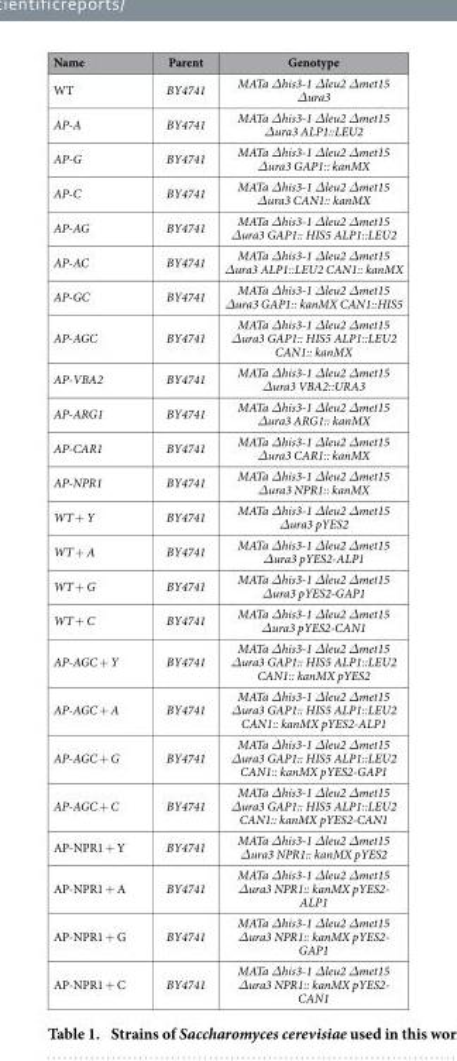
<table><thead><tr><td>Name</td><td>Parent</td><td>Genotype</td></tr></thead><tbody><tr><td>WT</td><td>BY4741</td><td>MATa Δhis3-1 Δleu2 Δmet15 Δura3</td></tr><tr><td>AP-A</td><td>BY4741</td><td>MATa Δhis3-1 Δleu2 Δmet15 Δura3 ALP1::LEU2</td></tr><tr><td>AP-G</td><td>BY4741</td><td>MATa Δhis3-1 Δleu2 Δmet15 Δura3 GAP1:: kanMX</td></tr><tr><td>AP-C</td><td>BY4741</td><td>MATa Δhis3-1 Δleu2 Δmet15 Δura3 CAN1:: kanMX</td></tr><tr><td>AP-AG</td><td>BY4741</td><td>MATa Δhis3-1 Δleu2 Δmet15 Δura3 GAP1:: HIS5 ALP1::LEU2</td></tr><tr><td>AP-AC</td><td>BY4741</td><td>MATa Δhis3-1 Δleu2 Δmet15 Δura3 ALP1::LEU2 CAN1:: kanMX</td></tr><tr><td>AP-GC</td><td>BY4741</td><td>MATa Δhis3-1 Δleu2 Δmet15 Δura3 GAP1:: kanMX CAN1::HIS5</td></tr><tr><td>AP-AGC</td><td>BY4741</td><td>MATa Δhis3-1 Δleu2 Δmet15 Δura3 GAP1:: HIS5 ALP1::LEU2 CAN1:: kanMX</td></tr><tr><td>AP-VBA2</td><td>BY4741</td><td>MATa Δhis3-1 Δleu2 Δmet15 Δura3 VBA2::URA3</td></tr><tr><td>AP-ARG1</td><td>BY4741</td><td>MATa Δhis3-1 Δleu2 Δmet15 Δura3 ARG1:: kanMX</td></tr><tr><td>AP-CAR1</td><td>BY4741</td><td>MATa Δhis3-1 Δleu2 Δmet15 Δura3 CAR1:: kanMX</td></tr><tr><td>AP-NPR1</td><td>BY4741</td><td>MATa Δhis3-1 Δleu2 Δmet15 Δura3 NPR1:: kanMX</td></tr><tr><td>WT + Y</td><td>BY4741</td><td>MATa Δhis3-1 Δleu2 Δmet15 Δura3 pYES2</td></tr><tr><td>WT + A</td><td>BY4741</td><td>MATa Δhis3-1 Δleu2 Δmet15 Δura3 pYES2-ALP1</td></tr><tr><td>WT + G</td><td>BY4741</td><td>MATa Δhis3-1 Δleu2 Δmet15 Δura3 pYES2-GAP1</td></tr><tr><td>WT + C</td><td>BY4741</td><td>MATa Δhis3-1 Δleu2 Δmet15 Δura3 pYES2-CAN1</td></tr><tr><td>AP-AGC + Y</td><td>BY4741</td><td>MATa Δhis3-1 Δleu2 Δmet15 Δura3 GAP1:: HIS5 ALP1::LEU2 CAN1:: kanMX pYES2</td></tr><tr><td>AP-AGC + A</td><td>BY4741</td><td>MATa Δhis3-1 Δleu2 Δmet15 Δura3 GAP1:: HIS5 ALP1::LEU2 CAN1:: kanMX pYES2-ALP1</td></tr><tr><td>AP-AGC + G</td><td>BY4741</td><td>MATa Δhis3-1 Δleu2 Δmet15 Δura3 GAP1:: HIS5 ALP1::LEU2 CAN1:: kanMX pYES2-GAP1</td></tr><tr><td>AP-AGC + C</td><td>BY4741</td><td>MATa Δhis3-1 Δleu2 Δmet15 Δura3 GAP1:: HIS5 ALP1::LEU2 CAN1:: kanMX pYES2-CAN1</td></tr><tr><td>AP-NPR1 + Y</td><td>BY4741</td><td>MATa Δhis3-1 Δleu2 Δmet15 Δura3 NPR1:: kanMX pYES2</td></tr><tr><td>AP-NPR1 + A</td><td>BY4741</td><td>MATa Δhis3-1 Δleu2 Δmet15 Δura3 NPR1:: kanMX pYES2- ALP1</td></tr><tr><td>AP-NPR1 + G</td><td>BY4741</td><td>MATa Δhis3-1 Δleu2 Δmet15 Δura3 NPR1:: kanMX pYES2- GAP1</td></tr><tr><td>AP-NPR1 + C</td><td>BY4741</td><td>MATa Δhis3-1 Δleu2 Δmet15 Δura3 NPR1:: kanMX pYES2- CAN1</td></tr></tbody></table>